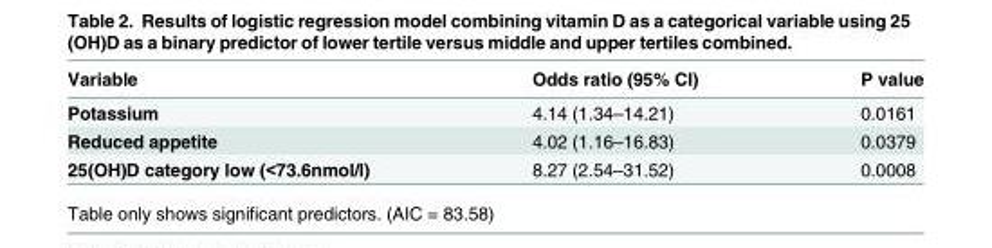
<table><thead><tr><td>Variable</td><td>Odds ratio (95% CI)</td><td>P value</td></tr></thead><tbody><tr><td>Potassium</td><td>4.14 (1.34–14.21)</td><td>0.0161</td></tr><tr><td>Reduced appetite</td><td>4.02 (1.16–16.83)</td><td>0.0379</td></tr><tr><td>25(OH)D category low (&lt;73.6nmol/l)</td><td>8.27 (2.54–31.52)</td><td>0.0008</td></tr></tbody></table>